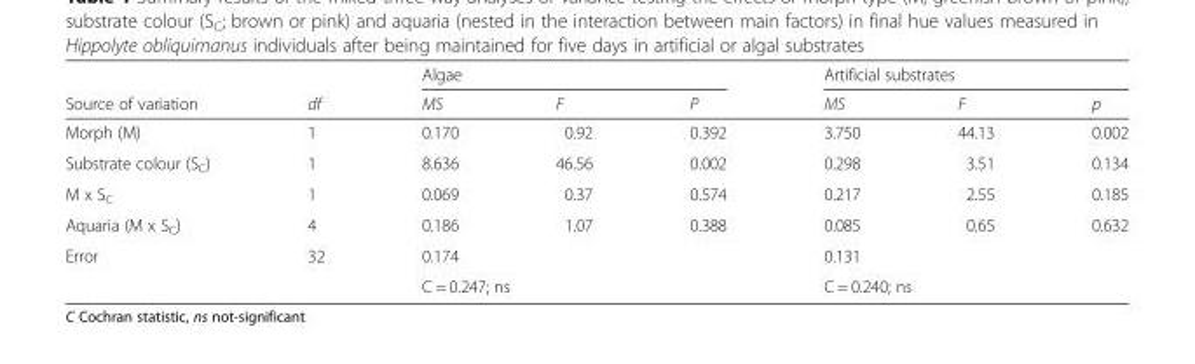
<table><thead><tr><td rowspan="2">Source of variation</td><td rowspan="2">df</td><td colspan="3">Algae</td><td colspan="3">Artificial substrates</td></tr><tr><td>MS</td><td>F</td><td>P</td><td>MS</td><td>F</td><td>p</td></tr></thead><tbody><tr><td>Morph (M)</td><td>1</td><td>0.170</td><td>0.92</td><td>0.392</td><td>3.750</td><td>44.13</td><td>0.002</td></tr><tr><td>Substrate colour (S<sub>C</sub>)</td><td>1</td><td>8.636</td><td>46.56</td><td>0.002</td><td>0.298</td><td>3.51</td><td>0.134</td></tr><tr><td>M x S<sub>C</sub></td><td>1</td><td>0.069</td><td>0.37</td><td>0.574</td><td>0.217</td><td>2.55</td><td>0.185</td></tr><tr><td>Aquaria (M x S<sub>C</sub>)</td><td>4</td><td>0.186</td><td>1.07</td><td>0.388</td><td>0.085</td><td>0.65</td><td>0.632</td></tr><tr><td>Error</td><td>32</td><td>0.174</td><td></td><td></td><td>0.131</td><td></td><td></td></tr><tr><td colspan="2"></td><td colspan="3">C = 0.247; ns</td><td colspan="3">C = 0.240; ns</td></tr></tbody></table>